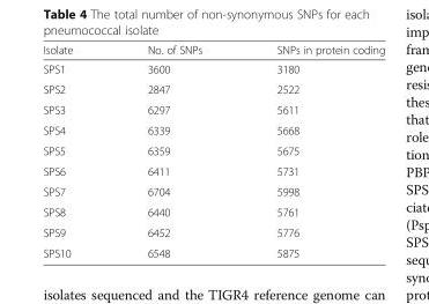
<table><thead><tr><td>Isolate</td><td>No. of SNPs</td><td>SNPs in protein coding</td></tr></thead><tbody><tr><td>SPS1</td><td>3600</td><td>3180</td></tr><tr><td>SPS2</td><td>2847</td><td>2522</td></tr><tr><td>SPS3</td><td>6297</td><td>5611</td></tr><tr><td>SPS4</td><td>6339</td><td>5668</td></tr><tr><td>SPS5</td><td>6359</td><td>5675</td></tr><tr><td>SPS6</td><td>6411</td><td>5731</td></tr><tr><td>SPS7</td><td>6704</td><td>5998</td></tr><tr><td>SPS8</td><td>6440</td><td>5761</td></tr><tr><td>SPS9</td><td>6452</td><td>5776</td></tr><tr><td>SPS10</td><td>6548</td><td>5875</td></tr></tbody></table>